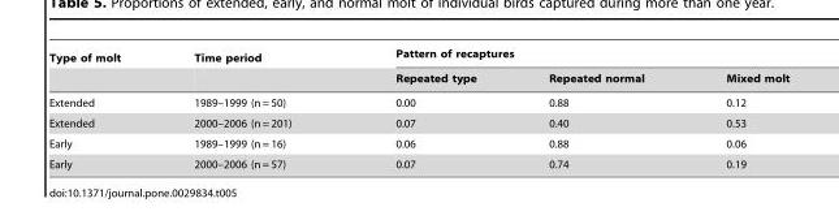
<table><thead><tr><td rowspan="2">Type of molt</td><td rowspan="2">Time period</td><td colspan="3">Pattern of recaptures</td></tr><tr><td>Repeated type</td><td>Repeated normal</td><td>Mixed molt</td></tr></thead><tbody><tr><td>Extended</td><td>1989–1999 (n = 50)</td><td>0.00</td><td>0.88</td><td>0.12</td></tr><tr><td>Extended</td><td>2000–2006 (n = 201)</td><td>0.07</td><td>0.40</td><td>0.53</td></tr><tr><td>Early</td><td>1989–1999 (n = 16)</td><td>0.06</td><td>0.88</td><td>0.06</td></tr><tr><td>Early</td><td>2000–2006 (n = 57)</td><td>0.07</td><td>0.74</td><td>0.19</td></tr></tbody></table>